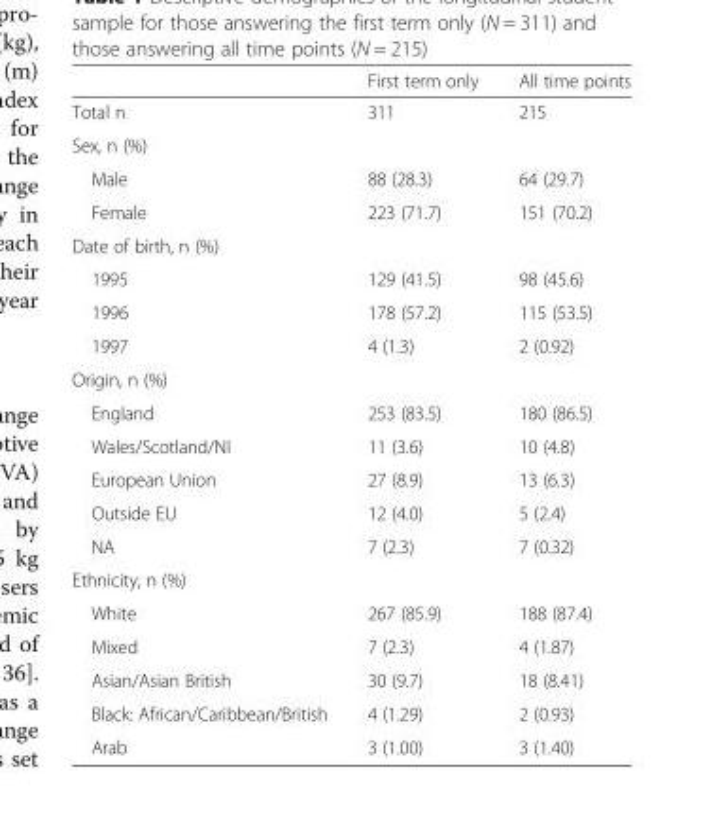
<table><thead><tr><td></td><td>First term only</td><td>All time points</td></tr></thead><tbody><tr><td>Total n</td><td>311</td><td>215</td></tr><tr><td colspan="3">Sex, n (%)</td></tr><tr><td>Male</td><td>88 (28.3)</td><td>64 (29.7)</td></tr><tr><td>Female</td><td>223 (71.7)</td><td>151 (70.2)</td></tr><tr><td colspan="3">Date of birth, n (%)</td></tr><tr><td>1995</td><td>129 (41.5)</td><td>98 (45.6)</td></tr><tr><td>1996</td><td>178 (57.2)</td><td>115 (53.5)</td></tr><tr><td>1997</td><td>4 (1.3)</td><td>2 (0.92)</td></tr><tr><td colspan="3">Origin, n (%)</td></tr><tr><td>England</td><td>253 (83.5)</td><td>180 (86.5)</td></tr><tr><td>Wales/Scotland/NI</td><td>11 (3.6)</td><td>10 (4.8)</td></tr><tr><td>European Union</td><td>27 (8.9)</td><td>13 (6.3)</td></tr><tr><td>Outside EU</td><td>12 (4.0)</td><td>5 (2.4)</td></tr><tr><td>NA</td><td>7 (2.3)</td><td>7 (0.32)</td></tr><tr><td colspan="3">Ethnicity, n (%)</td></tr><tr><td>White</td><td>267 (85.9)</td><td>188 (87.4)</td></tr><tr><td>Mixed</td><td>7 (2.3)</td><td>4 (1.87)</td></tr><tr><td>Asian/Asian British</td><td>30 (9.7)</td><td>18 (8.41)</td></tr><tr><td>Black: African/Caribbean/British</td><td>4 (1.29)</td><td>2 (0.93)</td></tr><tr><td>Arab</td><td>3 (1.00)</td><td>3 (1.40)</td></tr></tbody></table>